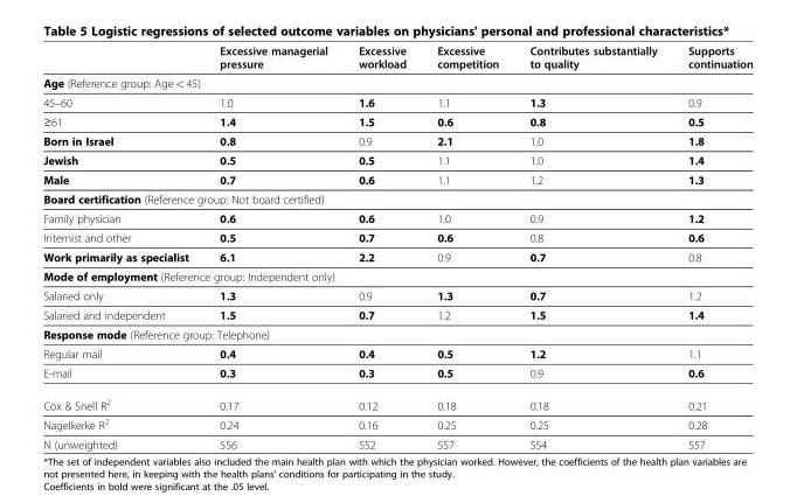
<table><thead><tr><td></td><td>Excessive managerial pressure</td><td>Excessive workload</td><td>Excessive competition</td><td>Contributes substantially to quality</td><td>Supports continuation</td></tr></thead><tbody><tr><td colspan="6">Age (Reference group: Age &lt; 45)</td></tr><tr><td>45–60</td><td>1.0</td><td>1.6</td><td>1.1</td><td>1.3</td><td>0.9</td></tr><tr><td>≥61</td><td>1.4</td><td>1.5</td><td>0.6</td><td>0.8</td><td>0.5</td></tr><tr><td>Born in Israel</td><td>0.8</td><td>0.9</td><td>2.1</td><td>1.0</td><td>1.8</td></tr><tr><td>Jewish</td><td>0.5</td><td>0.5</td><td>1.1</td><td>1.0</td><td>1.4</td></tr><tr><td>Male</td><td>0.7</td><td>0.6</td><td>1.1</td><td>1.2</td><td>1.3</td></tr><tr><td colspan="6">Board certification (Reference group: Not board certified)</td></tr><tr><td>Family physician</td><td>0.6</td><td>0.6</td><td>1.0</td><td>0.9</td><td>1.2</td></tr><tr><td>Internist and other</td><td>0.5</td><td>0.7</td><td>0.6</td><td>0.8</td><td>0.6</td></tr><tr><td>Work primarily as specialist</td><td>6.1</td><td>2.2</td><td>0.9</td><td>0.7</td><td>0.8</td></tr><tr><td colspan="6">Mode of employment (Reference group: Independent only)</td></tr><tr><td>Salaried only</td><td>1.3</td><td>0.9</td><td>1.3</td><td>0.7</td><td>1.2</td></tr><tr><td>Salaried and independent</td><td>1.5</td><td>0.7</td><td>1.2</td><td>1.5</td><td>1.4</td></tr><tr><td colspan="6">Response mode (Reference group: Telephone)</td></tr><tr><td>Regular mail</td><td>0.4</td><td>0.4</td><td>0.5</td><td>1.2</td><td>1.1</td></tr><tr><td>E-mail</td><td>0.3</td><td>0.3</td><td>0.5</td><td>0.9</td><td>0.6</td></tr><tr><td>Cox &amp; Snell R<sup>2</sup></td><td>0.17</td><td>0.12</td><td>0.18</td><td>0.18</td><td>0.21</td></tr><tr><td>Nagelkerke R<sup>2</sup></td><td>0.24</td><td>0.16</td><td>0.25</td><td>0.25</td><td>0.28</td></tr><tr><td>N (unweighted)</td><td>556</td><td>552</td><td>557</td><td>554</td><td>557</td></tr></tbody></table>